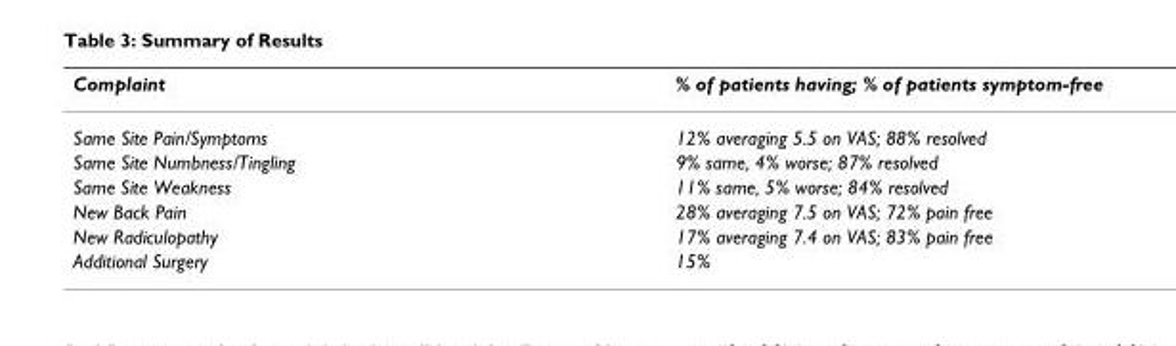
<table><thead><tr><td>Complaint</td><td>% of patients having; % of patients symptom-free</td></tr></thead><tbody><tr><td>Same Site Pain/Symptoms</td><td>12% averaging 5.5 on VAS; 88% resolved</td></tr><tr><td>Same Site Numbness/Tingling</td><td>9% same, 4% worse; 87% resolved</td></tr><tr><td>Same Site Weakness</td><td>11% same, 5% worse; 84% resolved</td></tr><tr><td>New Back Pain</td><td>28% averaging 7.5 on VAS; 72% pain free</td></tr><tr><td>New Radiculopathy</td><td>17% averaging 7.4 on VAS; 83% pain free</td></tr><tr><td>Additional Surgery</td><td>15%</td></tr></tbody></table>